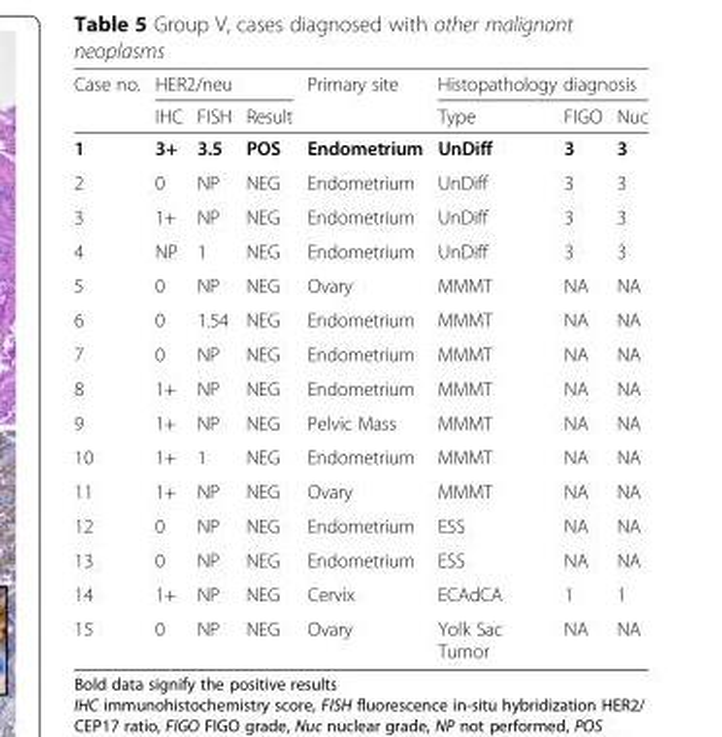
<table><thead><tr><td rowspan="2">Case no.</td><td colspan="3">HER2/neu</td><td rowspan="2">Primary site</td><td colspan="3">Histopathology diagnosis</td></tr><tr><td>IHC</td><td>FISH</td><td>Result</td><td>Type</td><td>FIGO</td><td>Nuc</td></tr></thead><tbody><tr><td>1</td><td>3+</td><td>3.5</td><td>POS</td><td>Endometrium</td><td>UnDiff</td><td>3</td><td>3</td></tr><tr><td>2</td><td>0</td><td>NP</td><td>NEG</td><td>Endometrium</td><td>UnDiff</td><td>3</td><td>3</td></tr><tr><td>3</td><td>1+</td><td>NP</td><td>NEG</td><td>Endometrium</td><td>UnDiff</td><td>3</td><td>3</td></tr><tr><td>4</td><td>NP</td><td>1</td><td>NEG</td><td>Endometrium</td><td>UnDiff</td><td>3</td><td>3</td></tr><tr><td>5</td><td>0</td><td>NP</td><td>NEG</td><td>Ovary</td><td>MMMT</td><td>NA</td><td>NA</td></tr><tr><td>6</td><td>0</td><td>1.54</td><td>NEG</td><td>Endometrium</td><td>MMMT</td><td>NA</td><td>NA</td></tr><tr><td>7</td><td>0</td><td>NP</td><td>NEG</td><td>Endometrium</td><td>MMMT</td><td>NA</td><td>NA</td></tr><tr><td>8</td><td>1+</td><td>NP</td><td>NEG</td><td>Endometrium</td><td>MMMT</td><td>NA</td><td>NA</td></tr><tr><td>9</td><td>1+</td><td>NP</td><td>NEG</td><td>Pelvic Mass</td><td>MMMT</td><td>NA</td><td>NA</td></tr><tr><td>10</td><td>1+</td><td>1</td><td>NEG</td><td>Endometrium</td><td>MMMT</td><td>NA</td><td>NA</td></tr><tr><td>11</td><td>1+</td><td>NP</td><td>NEG</td><td>Ovary</td><td>MMMT</td><td>NA</td><td>NA</td></tr><tr><td>12</td><td>0</td><td>NP</td><td>NEG</td><td>Endometrium</td><td>ESS</td><td>NA</td><td>NA</td></tr><tr><td>13</td><td>0</td><td>NP</td><td>NEG</td><td>Endometrium</td><td>ESS</td><td>NA</td><td>NA</td></tr><tr><td>14</td><td>1+</td><td>NP</td><td>NEG</td><td>Cervix</td><td>ECAdCA</td><td>1</td><td>1</td></tr><tr><td>15</td><td>0</td><td>NP</td><td>NEG</td><td>Ovary</td><td>Yolk Sac Tumor</td><td>NA</td><td>NA</td></tr></tbody></table>